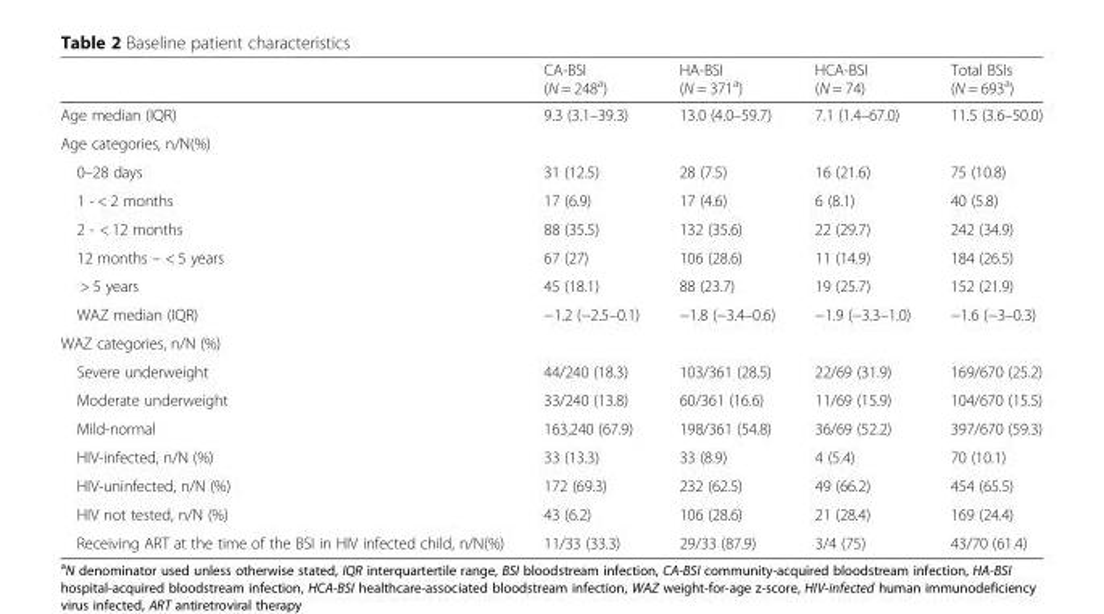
<table><thead><tr><td></td><td>CA-BSI (N = 248<sup>a</sup>)</td><td>HA-BSI (N = 371<sup>a</sup>)</td><td>HCA-BSI (N = 74)</td><td>Total BSIs (N = 693<sup>a</sup>)</td></tr></thead><tbody><tr><td>Age median (IQR)</td><td>9.3 (3.1–39.3)</td><td>13.0 (4.0–59.7)</td><td>7.1 (1.4–67.0)</td><td>11.5 (3.6–50.0)</td></tr><tr><td colspan="5">Age categories, n/N(%)</td></tr><tr><td>0–28 days</td><td>31 (12.5)</td><td>28 (7.5)</td><td>16 (21.6)</td><td>75 (10.8)</td></tr><tr><td>1 - &lt; 2 months</td><td>17 (6.9)</td><td>17 (4.6)</td><td>6 (8.1)</td><td>40 (5.8)</td></tr><tr><td>2 - &lt; 12 months</td><td>88 (35.5)</td><td>132 (35.6)</td><td>22 (29.7)</td><td>242 (34.9)</td></tr><tr><td>12 months – &lt; 5 years</td><td>67 (27)</td><td>106 (28.6)</td><td>11 (14.9)</td><td>184 (26.5)</td></tr><tr><td>&gt; 5 years</td><td>45 (18.1)</td><td>88 (23.7)</td><td>19 (25.7)</td><td>152 (21.9)</td></tr><tr><td>WAZ median (IQR)</td><td>−1.2 (−2.5–0.1)</td><td>−1.8 (−3.4–0.6)</td><td>−1.9 (−3.3–1.0)</td><td>−1.6 (−3–0.3)</td></tr><tr><td colspan="5">WAZ categories, n/N (%)</td></tr><tr><td>Severe underweight</td><td>44/240 (18.3)</td><td>103/361 (28.5)</td><td>22/69 (31.9)</td><td>169/670 (25.2)</td></tr><tr><td>Moderate underweight</td><td>33/240 (13.8)</td><td>60/361 (16.6)</td><td>11/69 (15.9)</td><td>104/670 (15.5)</td></tr><tr><td>Mild-normal</td><td>163,240 (67.9)</td><td>198/361 (54.8)</td><td>36/69 (52.2)</td><td>397/670 (59.3)</td></tr><tr><td>HIV-infected, n/N (%)</td><td>33 (13.3)</td><td>33 (8.9)</td><td>4 (5.4)</td><td>70 (10.1)</td></tr><tr><td>HIV-uninfected, n/N (%)</td><td>172 (69.3)</td><td>232 (62.5)</td><td>49 (66.2)</td><td>454 (65.5)</td></tr><tr><td>HIV not tested, n/N (%)</td><td>43 (6.2)</td><td>106 (28.6)</td><td>21 (28.4)</td><td>169 (24.4)</td></tr><tr><td>Receiving ART at the time of the BSI in HIV infected child, n/N(%)</td><td>11/33 (33.3)</td><td>29/33 (87.9)</td><td>3/4 (75)</td><td>43/70 (61.4)</td></tr></tbody></table>